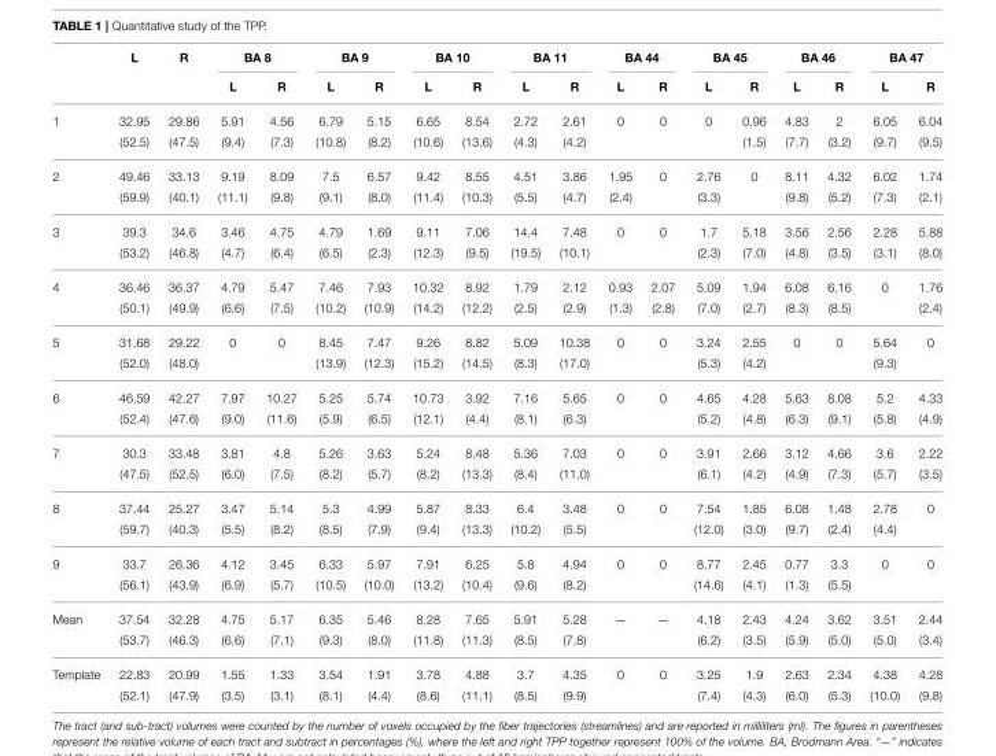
<table><thead><tr><td rowspan="2"></td><td rowspan="2">L</td><td rowspan="2">R</td><td colspan="2">BA 8</td><td colspan="2">BA 9</td><td colspan="2">BA 10</td><td colspan="2">BA 11</td><td colspan="2">BA 44</td><td colspan="2">BA 45</td><td colspan="2">BA 46</td><td colspan="2">BA 47</td></tr><tr><td>L</td><td>R</td><td>L</td><td>R</td><td>L</td><td>R</td><td>L</td><td>R</td><td>L</td><td>R</td><td>L</td><td>R</td><td>L</td><td>R</td><td>L</td><td>R</td></tr></thead><tbody><tr><td rowspan="2">1</td><td>32.95</td><td>29.86</td><td>5.91</td><td>4.56</td><td>6.79</td><td>5.15</td><td>6.65</td><td>8.54</td><td>2.72</td><td>2.61</td><td>0</td><td>0</td><td>0</td><td>0.96</td><td>4.83</td><td>2</td><td>6.05</td><td>6.04</td></tr><tr><td>(52.5)</td><td>(47.5)</td><td>(9.4)</td><td>(7.3)</td><td>(10.8)</td><td>(8.2)</td><td>(10.6)</td><td>(13.6)</td><td>(4.3)</td><td>(4.2)</td><td></td><td></td><td></td><td>(1.5)</td><td>(7.7)</td><td>(3.2)</td><td>(9.7)</td><td>(9.5)</td></tr><tr><td rowspan="2">2</td><td>49.46</td><td>33.13</td><td>9.19</td><td>8.09</td><td>7.5</td><td>6.57</td><td>9.42</td><td>8.55</td><td>4.51</td><td>3.86</td><td>1.95</td><td>0</td><td>2.76</td><td>0</td><td>8.11</td><td>4.32</td><td>6.02</td><td>1.74</td></tr><tr><td>(59.9)</td><td>(40.1)</td><td>(11.1)</td><td>(9.8)</td><td>(9.1)</td><td>(8.0)</td><td>(11.4)</td><td>(10.3)</td><td>(5.5)</td><td>(4.7)</td><td>(2.4)</td><td></td><td>(3.3)</td><td></td><td>(9.8)</td><td>(5.2)</td><td>(7.3)</td><td>(2.1)</td></tr><tr><td rowspan="2">3</td><td>39.3</td><td>34.6</td><td>3.46</td><td>4.75</td><td>4.79</td><td>1.69</td><td>9.11</td><td>7.06</td><td>14.4</td><td>7.48</td><td>0</td><td>0</td><td>1.7</td><td>5.18</td><td>3.56</td><td>2.56</td><td>2.28</td><td>5.88</td></tr><tr><td>(53.2)</td><td>(46.8)</td><td>(4.7)</td><td>(6.4)</td><td>(6.5)</td><td>(2.3)</td><td>(12.3)</td><td>(9.5)</td><td>(19.5)</td><td>(10.1)</td><td></td><td></td><td>(2.3)</td><td>(7.0)</td><td>(4.8)</td><td>(3.5)</td><td>(3.1)</td><td>(8.0)</td></tr><tr><td rowspan="2">4</td><td>36.46</td><td>36.37</td><td>4.79</td><td>5.47</td><td>7.46</td><td>7.93</td><td>10.32</td><td>8.92</td><td>1.79</td><td>2.12</td><td>0.93</td><td>2.07</td><td>5.09</td><td>1.94</td><td>6.08</td><td>6.16</td><td>0</td><td>1.76</td></tr><tr><td>(50.1)</td><td>(49.9)</td><td>(6.6)</td><td>(7.5)</td><td>(10.2)</td><td>(10.9)</td><td>(14.2)</td><td>(12.2)</td><td>(2.5)</td><td>(2.9)</td><td>(1.3)</td><td>(2.8)</td><td>(7.0)</td><td>(2.7)</td><td>(8.3)</td><td>(8.5)</td><td></td><td>(2.4)</td></tr><tr><td rowspan="2">5</td><td>31.68</td><td>29.22</td><td>0</td><td>0</td><td>8.45</td><td>7.47</td><td>9.26</td><td>8.82</td><td>5.09</td><td>10.38</td><td>0</td><td>0</td><td>3.24</td><td>2.55</td><td>0</td><td>0</td><td>5.64</td><td>0</td></tr><tr><td>(52.0)</td><td>(48.0)</td><td></td><td></td><td>(13.9)</td><td>(12.3)</td><td>(15.2)</td><td>(14.5)</td><td>(8.3)</td><td>(17.0)</td><td></td><td></td><td>(5.3)</td><td>(4.2)</td><td></td><td></td><td>(9.3)</td><td></td></tr><tr><td rowspan="2">6</td><td>46.59</td><td>42.27</td><td>7.97</td><td>10.27</td><td>5.25</td><td>5.74</td><td>10.73</td><td>3.92</td><td>7.16</td><td>5.65</td><td>0</td><td>0</td><td>4.65</td><td>4.28</td><td>5.63</td><td>8.08</td><td>5.2</td><td>4.33</td></tr><tr><td>(52.4)</td><td>(47.6)</td><td>(9.0)</td><td>(11.6)</td><td>(5.9)</td><td>(6.5)</td><td>(12.1)</td><td>(4.4)</td><td>(8.1)</td><td>(6.3)</td><td></td><td></td><td>(5.2)</td><td>(4.8)</td><td>(6.3)</td><td>(9.1)</td><td>(5.8)</td><td>(4.9)</td></tr><tr><td rowspan="2">7</td><td>30.3</td><td>33.48</td><td>3.81</td><td>4.8</td><td>5.26</td><td>3.63</td><td>5.24</td><td>8.48</td><td>5.36</td><td>7.03</td><td>0</td><td>0</td><td>3.91</td><td>2.66</td><td>3.12</td><td>4.66</td><td>3.6</td><td>2.22</td></tr><tr><td>(47.5)</td><td>(52.5)</td><td>(6.0)</td><td>(7.5)</td><td>(8.2)</td><td>(5.7)</td><td>(8.2)</td><td>(13.3)</td><td>(8.4)</td><td>(11.0)</td><td></td><td></td><td>(6.1)</td><td>(4.2)</td><td>(4.9)</td><td>(7.3)</td><td>(5.7)</td><td>(3.5)</td></tr><tr><td rowspan="2">8</td><td>37.44</td><td>25.27</td><td>3.47</td><td>5.14</td><td>5.3</td><td>4.99</td><td>5.87</td><td>8.33</td><td>6.4</td><td>3.48</td><td>0</td><td>0</td><td>7.54</td><td>1.85</td><td>6.08</td><td>1.48</td><td>2.78</td><td>0</td></tr><tr><td>(59.7)</td><td>(40.3)</td><td>(5.5)</td><td>(8.2)</td><td>(8.5)</td><td>(7.9)</td><td>(9.4)</td><td>(13.3)</td><td>(10.2)</td><td>(5.5)</td><td></td><td></td><td>(12.0)</td><td>(3.0)</td><td>(9.7)</td><td>(2.4)</td><td>(4.4)</td><td></td></tr><tr><td rowspan="2">9</td><td>33.7</td><td>26.36</td><td>4.12</td><td>3.45</td><td>6.33</td><td>5.97</td><td>7.91</td><td>6.25</td><td>5.8</td><td>4.94</td><td>0</td><td>0</td><td>8.77</td><td>2.45</td><td>0.77</td><td>3.3</td><td>0</td><td>0</td></tr><tr><td>(56.1)</td><td>(43.9)</td><td>(6.9)</td><td>(5.7)</td><td>(10.5)</td><td>(10.0)</td><td>(13.2)</td><td>(10.4)</td><td>(9.6)</td><td>(8.2)</td><td></td><td></td><td>(14.6)</td><td>(4.1)</td><td>(1.3)</td><td>(5.5)</td><td></td><td></td></tr><tr><td rowspan="2">Mean</td><td>37.54</td><td>32.28</td><td>4.75</td><td>5.17</td><td>6.35</td><td>5.46</td><td>8.28</td><td>7.65</td><td>5.91</td><td>5.28</td><td>—</td><td>—</td><td>4.18</td><td>2.43</td><td>4.24</td><td>3.62</td><td>3.51</td><td>2.44</td></tr><tr><td>(53.7)</td><td>(46.3)</td><td>(6.6)</td><td>(7.1)</td><td>(9.3)</td><td>(8.0)</td><td>(11.8)</td><td>(11.3)</td><td>(8.5)</td><td>(7.8)</td><td></td><td></td><td>(6.2)</td><td>(3.5)</td><td>(5.9)</td><td>(5.0)</td><td>(5.0)</td><td>(3.4)</td></tr><tr><td rowspan="2">Template</td><td>22.83</td><td>20.99</td><td>1.55</td><td>1.33</td><td>3.54</td><td>1.91</td><td>3.78</td><td>4.88</td><td>3.7</td><td>4.35</td><td>0</td><td>0</td><td>3.25</td><td>1.9</td><td>2.63</td><td>2.34</td><td>4.38</td><td>4.28</td></tr><tr><td>(52.1)</td><td>(47.9)</td><td>(3.5)</td><td>(3.1)</td><td>(8.1)</td><td>(4.4)</td><td>(8.6)</td><td>(11.1)</td><td>(8.5)</td><td>(9.9)</td><td></td><td></td><td>(7.4)</td><td>(4.3)</td><td>(6.0)</td><td>(5.3)</td><td>(10.0)</td><td>(9.8)</td></tr></tbody></table>